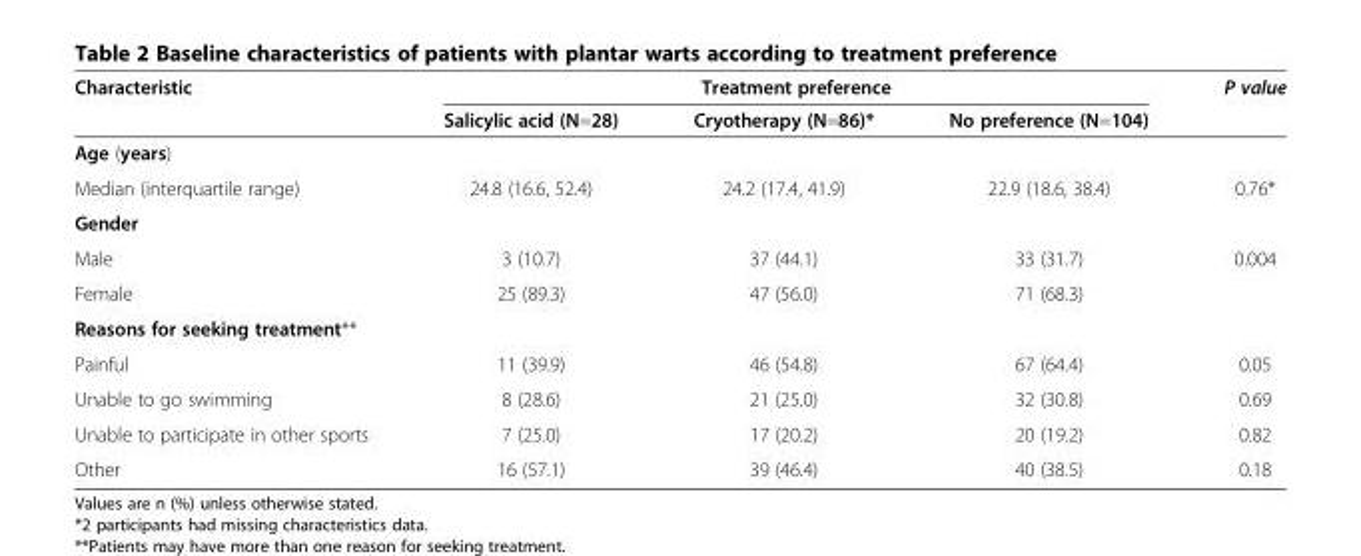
<table><thead><tr><td rowspan="2">Characteristic</td><td colspan="3">Treatment preference</td><td rowspan="2">P value</td></tr><tr><td>Salicylic acid (N=28)</td><td>Cryotherapy (N=86)*</td><td>No preference (N=104)</td></tr></thead><tbody><tr><td colspan="5">Age (years)</td></tr><tr><td>Median (interquartile range)</td><td>24.8 (16.6, 52.4)</td><td>24.2 (17.4, 41.9)</td><td>22.9 (18.6, 38.4)</td><td>0.76*</td></tr><tr><td colspan="5">Gender</td></tr><tr><td>Male</td><td>3 (10.7)</td><td>37 (44.1)</td><td>33 (31.7)</td><td>0.004</td></tr><tr><td>Female</td><td>25 (89.3)</td><td>47 (56.0)</td><td>71 (68.3)</td><td></td></tr><tr><td colspan="5">Reasons for seeking treatment**</td></tr><tr><td>Painful</td><td>11 (39.9)</td><td>46 (54.8)</td><td>67 (64.4)</td><td>0.05</td></tr><tr><td>Unable to go swimming</td><td>8 (28.6)</td><td>21 (25.0)</td><td>32 (30.8)</td><td>0.69</td></tr><tr><td>Unable to participate in other sports</td><td>7 (25.0)</td><td>17 (20.2)</td><td>20 (19.2)</td><td>0.82</td></tr><tr><td>Other</td><td>16 (57.1)</td><td>39 (46.4)</td><td>40 (38.5)</td><td>0.18</td></tr></tbody></table>